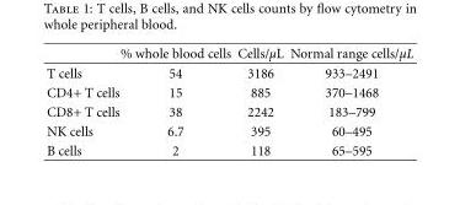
<table><thead><tr><td></td><td>% whole blood cells</td><td>Cells/μL</td><td>Normal range cells/μL</td></tr></thead><tbody><tr><td>T cells</td><td>54</td><td>3186</td><td>933–2491</td></tr><tr><td>CD4+ T cells</td><td>15</td><td>885</td><td>370–1468</td></tr><tr><td>CD8+ T cells</td><td>38</td><td>2242</td><td>183–799</td></tr><tr><td>NK cells</td><td>6.7</td><td>395</td><td>60–495</td></tr><tr><td>B cells</td><td>2</td><td>118</td><td>65–595</td></tr></tbody></table>